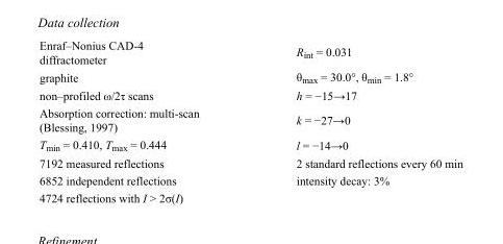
<table><tbody><tr><td>Enraf–Nonius CAD-4 diffractometer</td><td>R<sub>int</sub> = 0.031</td></tr><tr><td>graphite</td><td>θ<sub>max</sub> = 30.0°, θ<sub>min</sub> = 1.8°</td></tr><tr><td>non–profiled ω/2τ scans</td><td>h = −15→17</td></tr><tr><td>Absorption correction: multi-scan (Blessing, 1997)</td><td>k = −27→0</td></tr><tr><td>T<sub>min</sub> = 0.410, T<sub>max</sub> = 0.444</td><td>l = −14→0</td></tr><tr><td>7192 measured reflections</td><td>2 standard reflections every 60 min</td></tr><tr><td>6852 independent reflections</td><td>intensity decay: 3%</td></tr><tr><td>4724 reflections with I &gt; 2σ(I)</td><td></td></tr></tbody></table>